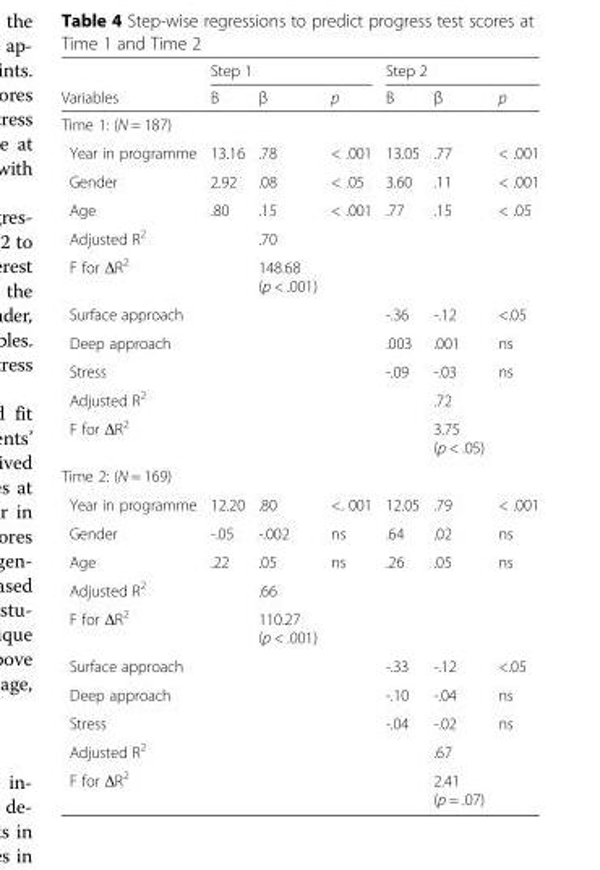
<table><thead><tr><td rowspan="2">Variables</td><td colspan="3">Step 1</td><td colspan="3">Step 2</td></tr><tr><td>B</td><td>β</td><td>p</td><td>B</td><td>β</td><td>p</td></tr></thead><tbody><tr><td colspan="7">Time 1: (N = 187)</td></tr><tr><td>Year in programme</td><td>13.16</td><td>.78</td><td>&lt; .001</td><td>13.05</td><td>.77</td><td>&lt; .001</td></tr><tr><td>Gender</td><td>2.92</td><td>.08</td><td>&lt; .05</td><td>3.60</td><td>.11</td><td>&lt; .001</td></tr><tr><td>Age</td><td>.80</td><td>.15</td><td>&lt; .001</td><td>.77</td><td>.15</td><td>&lt; .05</td></tr><tr><td>Adjusted R<sup>2</sup></td><td></td><td>.70</td><td></td><td></td><td></td><td></td></tr><tr><td>F for ΔR<sup>2</sup></td><td></td><td>148.68 (p &lt; .001)</td><td></td><td></td><td></td><td></td></tr><tr><td>Surface approach</td><td></td><td></td><td></td><td>-.36</td><td>-.12</td><td>&lt;.05</td></tr><tr><td>Deep approach</td><td></td><td></td><td></td><td>.003</td><td>.001</td><td>ns</td></tr><tr><td>Stress</td><td></td><td></td><td></td><td>-.09</td><td>-.03</td><td>ns</td></tr><tr><td>Adjusted R<sup>2</sup></td><td></td><td></td><td></td><td></td><td>.72</td><td></td></tr><tr><td>F for ΔR<sup>2</sup></td><td></td><td></td><td></td><td></td><td>3.75 (p &lt; .05)</td><td></td></tr><tr><td colspan="7">Time 2: (N = 169)</td></tr><tr><td>Year in programme</td><td>12.20</td><td>.80</td><td>&lt;. 001</td><td>12.05</td><td>.79</td><td>&lt; .001</td></tr><tr><td>Gender</td><td>-.05</td><td>-.002</td><td>ns</td><td>.64</td><td>.02</td><td>ns</td></tr><tr><td>Age</td><td>.22</td><td>.05</td><td>ns</td><td>.26</td><td>.05</td><td>ns</td></tr><tr><td>Adjusted R<sup>2</sup></td><td></td><td>.66</td><td></td><td></td><td></td><td></td></tr><tr><td>F for ΔR<sup>2</sup></td><td></td><td>110.27 (p &lt; .001)</td><td></td><td></td><td></td><td></td></tr><tr><td>Surface approach</td><td></td><td></td><td></td><td>-.33</td><td>-.12</td><td>&lt;.05</td></tr><tr><td>Deep approach</td><td></td><td></td><td></td><td>-.10</td><td>-.04</td><td>ns</td></tr><tr><td>Stress</td><td></td><td></td><td></td><td>-.04</td><td>-.02</td><td>ns</td></tr><tr><td>Adjusted R<sup>2</sup></td><td></td><td></td><td></td><td></td><td colspan="2">.67</td></tr><tr><td>F for ΔR<sup>2</sup></td><td></td><td></td><td></td><td></td><td>2.41 (p = .07)</td><td></td></tr></tbody></table>